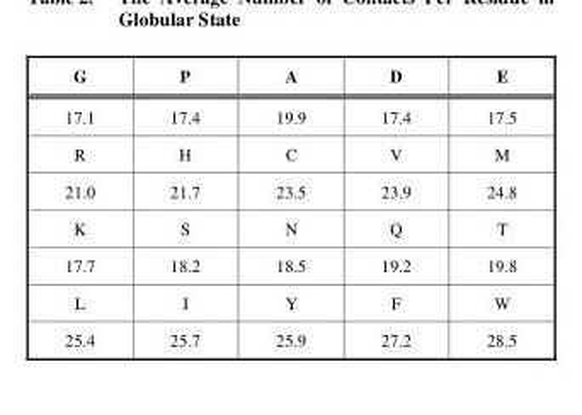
<table><tbody><tr><td>G</td><td>P</td><td>A</td><td>D</td><td>E</td></tr><tr><td>17.1</td><td>17.4</td><td>19.9</td><td>17.4</td><td>17.5</td></tr><tr><td>R</td><td>H</td><td>C</td><td>V</td><td>M</td></tr><tr><td>21.0</td><td>21.7</td><td>23.5</td><td>23.9</td><td>24.8</td></tr><tr><td>K</td><td>S</td><td>N</td><td>Q</td><td>T</td></tr><tr><td>17.7</td><td>18.2</td><td>18.5</td><td>19.2</td><td>19.8</td></tr><tr><td>L</td><td>I</td><td>Y</td><td>F</td><td>W</td></tr><tr><td>25.4</td><td>25.7</td><td>25.9</td><td>27.2</td><td>28.5</td></tr></tbody></table>